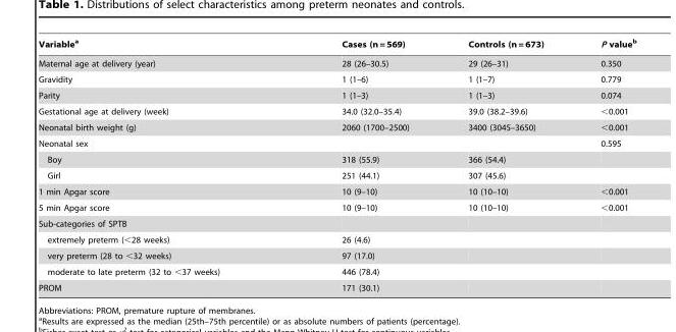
<table><thead><tr><td>Variable<sup>a</sup></td><td>Cases (n = 569)</td><td>Controls (n = 673)</td><td>P value<sup>b</sup></td></tr></thead><tbody><tr><td>Maternal age at delivery (year)</td><td>28 (26–30.5)</td><td>29 (26–31)</td><td>0.350</td></tr><tr><td>Gravidity</td><td>1 (1–6)</td><td>1 (1–7)</td><td>0.779</td></tr><tr><td>Parity</td><td>1 (1–3)</td><td>1 (1–3)</td><td>0.074</td></tr><tr><td>Gestational age at delivery (week)</td><td>34.0 (32.0–35.4)</td><td>39.0 (38.2–39.6)</td><td>&lt;0.001</td></tr><tr><td>Neonatal birth weight (g)</td><td>2060 (1700–2500)</td><td>3400 (3045–3650)</td><td>&lt;0.001</td></tr><tr><td>Neonatal sex</td><td></td><td></td><td>0.595</td></tr><tr><td>Boy</td><td>318 (55.9)</td><td>366 (54.4)</td><td></td></tr><tr><td>Girl</td><td>251 (44.1)</td><td>307 (45.6)</td><td></td></tr><tr><td>1 min Apgar score</td><td>10 (9–10)</td><td>10 (10–10)</td><td>&lt;0.001</td></tr><tr><td>5 min Apgar score</td><td>10 (9–10)</td><td>10 (10–10)</td><td>&lt;0.001</td></tr><tr><td colspan="4">Sub-categories of SPTB</td></tr><tr><td>extremely preterm (&lt;28 weeks)</td><td>26 (4.6)</td><td></td><td></td></tr><tr><td>very preterm (28 to &lt;32 weeks)</td><td>97 (17.0)</td><td></td><td></td></tr><tr><td>moderate to late preterm (32 to &lt;37 weeks)</td><td>446 (78.4)</td><td></td><td></td></tr><tr><td>PROM</td><td>171 (30.1)</td><td></td><td></td></tr></tbody></table>